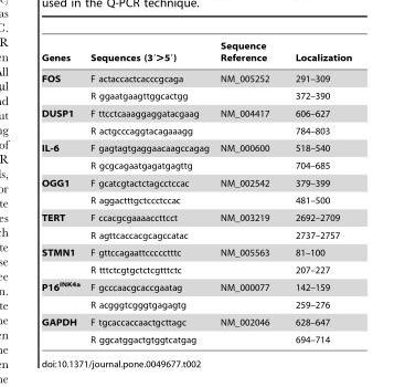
<table><thead><tr><td>Genes</td><td>Sequences (39. .59)</td><td>Sequence Reference</td><td>Localization</td></tr></thead><tbody><tr><td rowspan="2">FOS</td><td>F actaccactcacccgcaga</td><td>NM_005252</td><td>291–309</td></tr><tr><td>R ggaatgaagttggcactgg</td><td></td><td>372–390</td></tr><tr><td rowspan="2">DUSP1</td><td>F ttcctcaaaggaggatacgaag</td><td>NM_004417</td><td>606–627</td></tr><tr><td>R actgcccaggtacagaaagg</td><td></td><td>784–803</td></tr><tr><td rowspan="2">IL-6</td><td>F gagtagtgaggaacaagccagag</td><td>NM_000600</td><td>518–540</td></tr><tr><td>R gcgcagaatgagatgagttg</td><td></td><td>704–685</td></tr><tr><td rowspan="2">OGG1</td><td>F gcatcgtactctagcctccac</td><td>NM_002542</td><td>379–399</td></tr><tr><td>R aggactttgctccctccac</td><td></td><td>481–500</td></tr><tr><td rowspan="2">TERT</td><td>F ccacgcgaaaaccttcct</td><td>NM_003219</td><td>2692–2709</td></tr><tr><td>R agttcaccacgcagccatac</td><td></td><td>2737–2757</td></tr><tr><td rowspan="2">STMN1</td><td>F gttccagaattccccctttc</td><td>NM_005563</td><td>81–100</td></tr><tr><td>R tttctcgtgctctcgtttctc</td><td></td><td>207–227</td></tr><tr><td rowspan="2">P16<sup>INK4a</sup></td><td>F gcccaacgcaccgaatag</td><td>NM_000077</td><td>142–159</td></tr><tr><td>R acgggtcgggtgagagtg</td><td></td><td>259–276</td></tr><tr><td rowspan="2">GAPDH</td><td>F tgcaccaccaactgcttagc</td><td>NM_002046</td><td>628–647</td></tr><tr><td>R ggcatggactgtggtcatgag</td><td></td><td>694–714</td></tr></tbody></table>